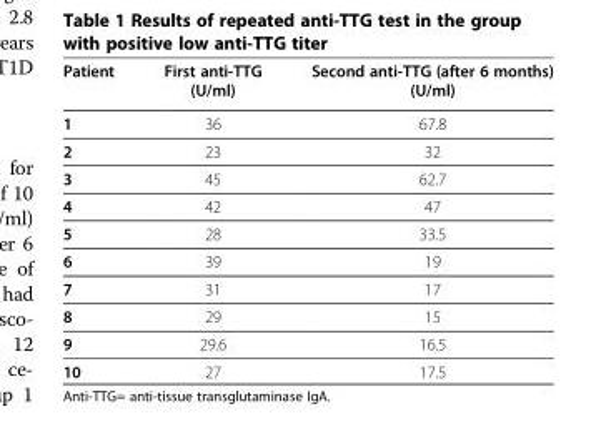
<table><thead><tr><td>Patient</td><td>First anti-TTG (U/ml)</td><td>Second anti-TTG (after 6 months) (U/ml)</td></tr></thead><tbody><tr><td>1</td><td>36</td><td>67.8</td></tr><tr><td>2</td><td>23</td><td>32</td></tr><tr><td>3</td><td>45</td><td>62.7</td></tr><tr><td>4</td><td>42</td><td>47</td></tr><tr><td>5</td><td>28</td><td>33.5</td></tr><tr><td>6</td><td>39</td><td>19</td></tr><tr><td>7</td><td>31</td><td>17</td></tr><tr><td>8</td><td>29</td><td>15</td></tr><tr><td>9</td><td>29.6</td><td>16.5</td></tr><tr><td>10</td><td>27</td><td>17.5</td></tr></tbody></table>